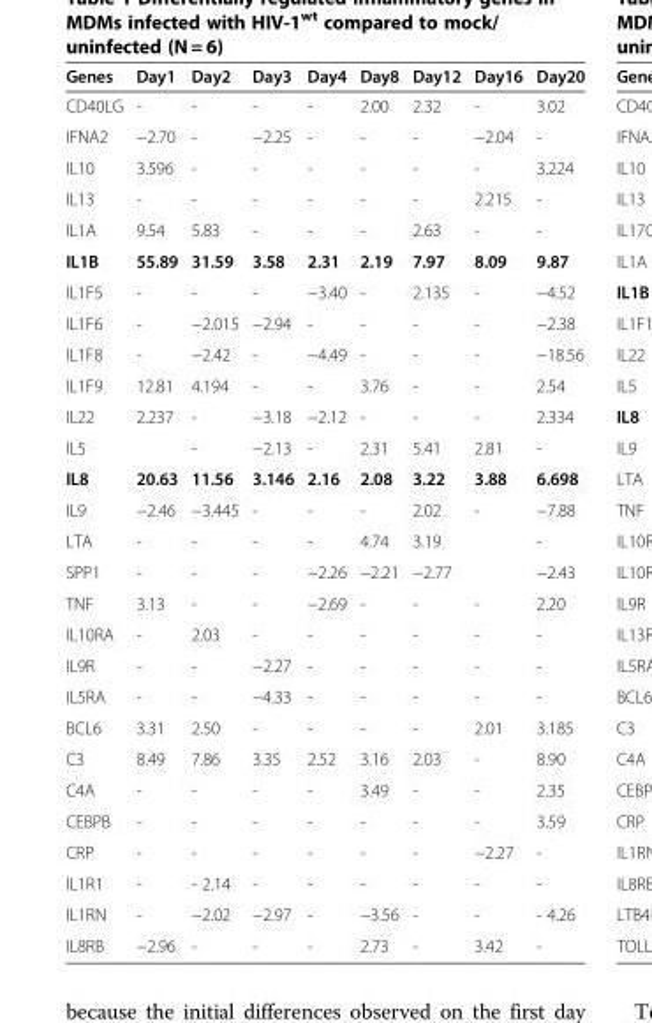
<table><thead><tr><td>Genes</td><td>Day1</td><td>Day2</td><td>Day3</td><td>Day4</td><td>Day8</td><td>Day12</td><td>Day16</td><td>Day20</td></tr></thead><tbody><tr><td>CD40LG</td><td>-</td><td>-</td><td>-</td><td>-</td><td>2.00</td><td>2.32</td><td>-</td><td>3.02</td></tr><tr><td>IFNA2</td><td>−2.70</td><td>-</td><td>−2.25</td><td>-</td><td>-</td><td>-</td><td>−2.04</td><td>-</td></tr><tr><td>IL10</td><td>3.596</td><td>-</td><td>-</td><td>-</td><td>-</td><td>-</td><td>-</td><td>3.224</td></tr><tr><td>IL13</td><td>-</td><td>-</td><td>-</td><td>-</td><td>-</td><td>-</td><td>2.215</td><td>-</td></tr><tr><td>IL1A</td><td>9.54</td><td>5.83</td><td>-</td><td>-</td><td>-</td><td>2.63</td><td>-</td><td>-</td></tr><tr><td>IL1B</td><td>55.89</td><td>31.59</td><td>3.58</td><td>2.31</td><td>2.19</td><td>7.97</td><td>8.09</td><td>9.87</td></tr><tr><td>IL1F5</td><td>-</td><td>-</td><td>-</td><td>−3.40</td><td>-</td><td>2.135</td><td>-</td><td>−4.52</td></tr><tr><td>IL1F6</td><td>-</td><td>−2.015</td><td>−2.94</td><td>-</td><td>-</td><td>-</td><td>-</td><td>−2.38</td></tr><tr><td>IL1F8</td><td>-</td><td>−2.42</td><td>-</td><td>−4.49</td><td>-</td><td>-</td><td>-</td><td>−18.56</td></tr><tr><td>IL1F9</td><td>12.81</td><td>4.194</td><td>-</td><td>-</td><td>3.76</td><td>-</td><td>-</td><td>2.54</td></tr><tr><td>IL22</td><td>2.237</td><td>-</td><td>−3.18</td><td>−2.12</td><td>-</td><td>-</td><td>-</td><td>2.334</td></tr><tr><td>IL5</td><td></td><td>-</td><td>−2.13</td><td>-</td><td>2.31</td><td>5.41</td><td>2.81</td><td>-</td></tr><tr><td>IL8</td><td>20.63</td><td>11.56</td><td>3.146</td><td>2.16</td><td>2.08</td><td>3.22</td><td>3.88</td><td>6.698</td></tr><tr><td>IL9</td><td>−2.46</td><td>−3.445</td><td>-</td><td>-</td><td>-</td><td>2.02</td><td>-</td><td>−7.88</td></tr><tr><td>LTA</td><td>-</td><td>-</td><td>-</td><td>-</td><td>4.74</td><td>3.19</td><td></td><td>-</td></tr><tr><td>SPP1</td><td>-</td><td>-</td><td>-</td><td>−2.26</td><td>−2.21</td><td>−2.77</td><td></td><td>−2.43</td></tr><tr><td>TNF</td><td>3.13</td><td>-</td><td>-</td><td>−2.69</td><td>-</td><td>-</td><td>-</td><td>2.20</td></tr><tr><td>IL10RA</td><td>-</td><td>2.03</td><td>-</td><td>-</td><td>-</td><td>-</td><td>-</td><td>-</td></tr><tr><td>IL9R</td><td>-</td><td>-</td><td>−2.27</td><td>-</td><td>-</td><td>-</td><td>-</td><td>-</td></tr><tr><td>IL5RA</td><td>-</td><td>-</td><td>−4.33</td><td>-</td><td>-</td><td>-</td><td>-</td><td>-</td></tr><tr><td>BCL6</td><td>3.31</td><td>2.50</td><td>-</td><td>-</td><td>-</td><td>-</td><td>2.01</td><td>3.185</td></tr><tr><td>C3</td><td>8.49</td><td>7.86</td><td>3.35</td><td>2.52</td><td>3.16</td><td>2.03</td><td>-</td><td>8.90</td></tr><tr><td>C4A</td><td>-</td><td>-</td><td>-</td><td>-</td><td>3.49</td><td>-</td><td>-</td><td>2.35</td></tr><tr><td>CEBPB</td><td>-</td><td>-</td><td>-</td><td>-</td><td>-</td><td>-</td><td>-</td><td>3.59</td></tr><tr><td>CRP</td><td>-</td><td>-</td><td>-</td><td>-</td><td>-</td><td>-</td><td>−2.27</td><td>-</td></tr><tr><td>IL1R1</td><td>-</td><td>- 2.14</td><td>-</td><td>-</td><td>-</td><td>-</td><td>-</td><td>-</td></tr><tr><td>IL1RN</td><td>-</td><td>−2.02</td><td>−2.97</td><td>-</td><td>−3.56</td><td>-</td><td>-</td><td>- 4.26</td></tr><tr><td>IL8RB</td><td>−2.96</td><td>-</td><td>-</td><td>-</td><td>2.73</td><td>-</td><td>3.42</td><td>-</td></tr></tbody></table>